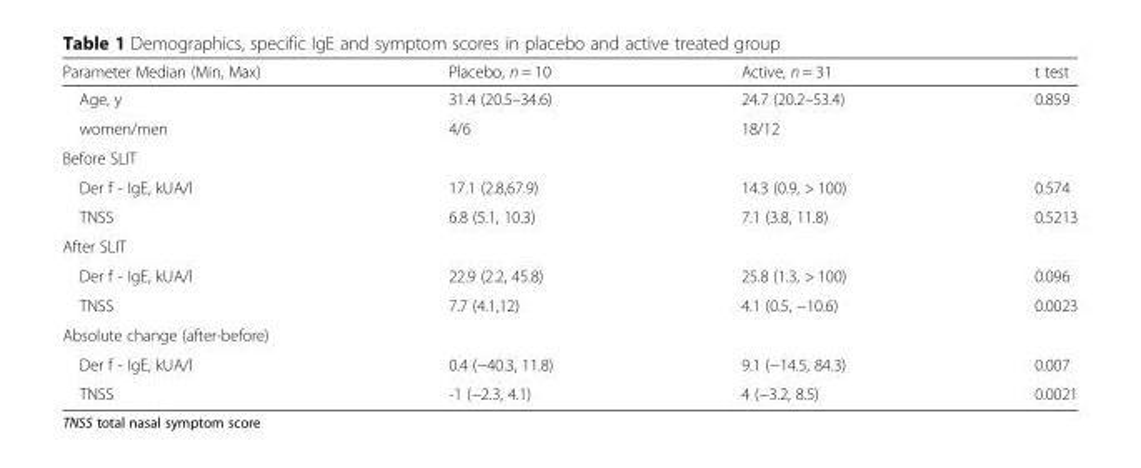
<table><thead><tr><td>Parameter Median (Min, Max)</td><td>Placebo, n = 10</td><td>Active, n = 31</td><td>t test</td></tr></thead><tbody><tr><td>Age, y</td><td>31.4 (20.5–34.6)</td><td>24.7 (20.2–53.4)</td><td>0.859</td></tr><tr><td>women/men</td><td>4/6</td><td>18/12</td><td></td></tr><tr><td colspan="4">Before SLIT</td></tr><tr><td>Der f - IgE, kUA/l</td><td>17.1 (2.8,67.9)</td><td>14.3 (0.9, &gt; 100)</td><td>0.574</td></tr><tr><td>TNSS</td><td>6.8 (5.1, 10.3)</td><td>7.1 (3.8, 11.8)</td><td>0.5213</td></tr><tr><td colspan="4">After SLIT</td></tr><tr><td>Der f - IgE, kUA/l</td><td>22.9 (2.2, 45.8)</td><td>25.8 (1.3, &gt; 100)</td><td>0.096</td></tr><tr><td>TNSS</td><td>7.7 (4.1,12)</td><td>4.1 (0.5, −10.6)</td><td>0.0023</td></tr><tr><td colspan="4">Absolute change (after-before)</td></tr><tr><td>Der f - IgE, kUA/l</td><td>0.4 (−40.3, 11.8)</td><td>9.1 (−14.5, 84.3)</td><td>0.007</td></tr><tr><td>TNSS</td><td>-1 (−2.3, 4.1)</td><td>4 (−3.2, 8.5)</td><td>0.0021</td></tr></tbody></table>